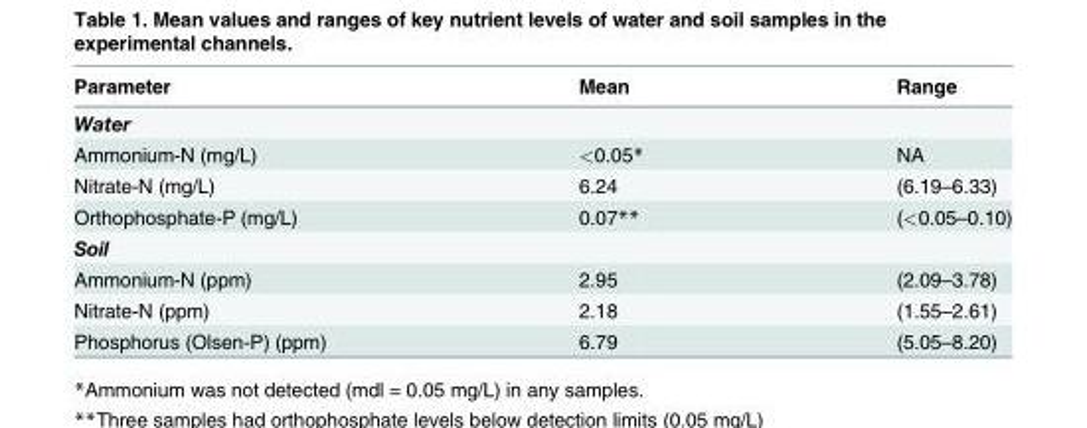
<table><thead><tr><td>Parameter</td><td>Mean</td><td>Range</td></tr></thead><tbody><tr><td colspan="3">Water</td></tr><tr><td>Ammonium-N (mg/L)</td><td>&lt;0.05*</td><td>NA</td></tr><tr><td>Nitrate-N (mg/L)</td><td>6.24</td><td>(6.19–6.33)</td></tr><tr><td>Orthophosphate-P (mg/L)</td><td>0.07**</td><td>(&lt;0.05–0.10)</td></tr><tr><td colspan="3">Soil</td></tr><tr><td>Ammonium-N (ppm)</td><td>2.95</td><td>(2.09–3.78)</td></tr><tr><td>Nitrate-N (ppm)</td><td>2.18</td><td>(1.55–2.61)</td></tr><tr><td>Phosphorus (Olsen-P) (ppm)</td><td>6.79</td><td>(5.05–8.20)</td></tr></tbody></table>